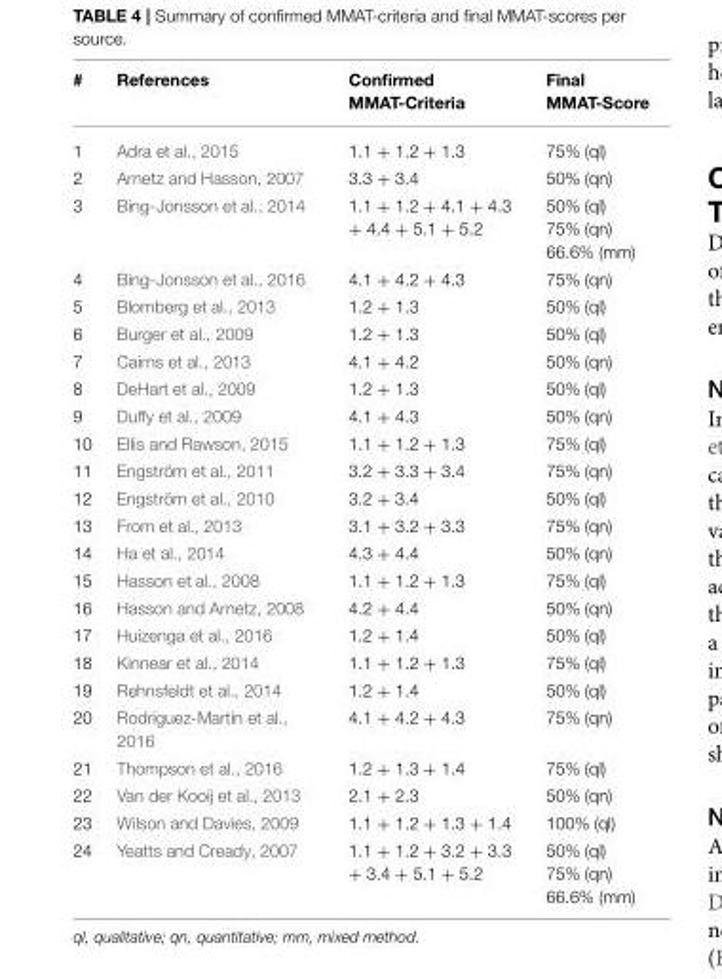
<table><thead><tr><td>#</td><td>References</td><td>Confirmed MMAT-Criteria</td><td>Final MMAT-Score</td></tr></thead><tbody><tr><td>1</td><td>Adra et al., 2015</td><td>1.1 + 1.2 + 1.3</td><td>75% (ql)</td></tr><tr><td>2</td><td>Arnetz and Hasson, 2007</td><td>3.3 + 3.4</td><td>50% (qn)</td></tr><tr><td>3</td><td>Bing-Jonsson et al., 2014</td><td>1.1 + 1.2 + 4.1 + 4.3 + 4.4 + 5.1 + 5.2</td><td>50% (ql) 75% (qn) 66.6% (mm)</td></tr><tr><td>4</td><td>Bing-Jonsson et al., 2016</td><td>4.1 + 4.2 + 4.3</td><td>75% (qn)</td></tr><tr><td>5</td><td>Blomberg et al., 2013</td><td>1.2 + 1.3</td><td>50% (ql)</td></tr><tr><td>6</td><td>Burger et al., 2009</td><td>1.2 + 1.3</td><td>50% (ql)</td></tr><tr><td>7</td><td>Cairns et al., 2013</td><td>4.1 + 4.2</td><td>50% (qn)</td></tr><tr><td>8</td><td>DeHart et al., 2009</td><td>1.2 + 1.3</td><td>50% (ql)</td></tr><tr><td>9</td><td>Duffy et al., 2009</td><td>4.1 + 4.3</td><td>50% (qn)</td></tr><tr><td>10</td><td>Ellis and Rawson, 2015</td><td>1.1 + 1.2 + 1.3</td><td>75% (ql)</td></tr><tr><td>11</td><td>Engström et al., 2011</td><td>3.2 + 3.3 + 3.4</td><td>75% (qn)</td></tr><tr><td>12</td><td>Engström et al., 2010</td><td>3.2 + 3.4</td><td>50% (ql)</td></tr><tr><td>13</td><td>From et al., 2013</td><td>3.1 + 3.2 + 3.3</td><td>75% (qn)</td></tr><tr><td>14</td><td>Ha et al., 2014</td><td>4.3 + 4.4</td><td>50% (qn)</td></tr><tr><td>15</td><td>Hasson et al., 2008</td><td>1.1 + 1.2 + 1.3</td><td>75% (ql)</td></tr><tr><td>16</td><td>Hasson and Arnetz, 2008</td><td>4.2 + 4.4</td><td>50% (qn)</td></tr><tr><td>17</td><td>Huizenga et al., 2016</td><td>1.2 + 1.4</td><td>50% (ql)</td></tr><tr><td>18</td><td>Kinnear et al., 2014</td><td>1.1 + 1.2 + 1.3</td><td>75% (ql)</td></tr><tr><td>19</td><td>Rehnsfeldt et al., 2014</td><td>1.2 + 1.4</td><td>50% (ql)</td></tr><tr><td>20</td><td>Rodríguez-Martín et al., 2016</td><td>4.1 + 4.2 + 4.3</td><td>75% (qn)</td></tr><tr><td>21</td><td>Thompson et al., 2016</td><td>1.2 + 1.3 + 1.4</td><td>75% (ql)</td></tr><tr><td>22</td><td>Van der Kooij et al., 2013</td><td>2.1 + 2.3</td><td>50% (qn)</td></tr><tr><td>23</td><td>Wilson and Davies, 2009</td><td>1.1 + 1.2 + 1.3 + 1.4</td><td>100% (ql)</td></tr><tr><td>24</td><td>Yeatts and Cready, 2007</td><td>1.1 + 1.2 + 3.2 + 3.3 + 3.4 + 5.1 + 5.2</td><td>50% (ql) 75% (qn) 66.6% (mm)</td></tr></tbody></table>